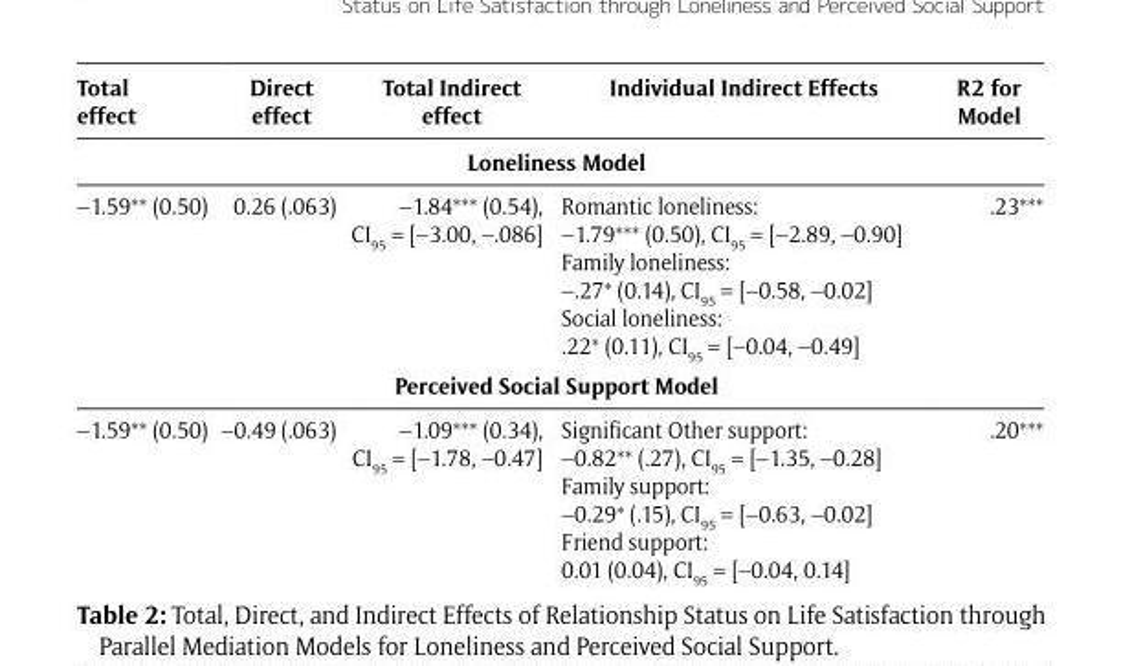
<table><thead><tr><td>Total effect</td><td>Direct effect</td><td>Total Indirect effect</td><td>Individual Indirect Effects</td><td>R2 for Model</td></tr></thead><tbody><tr><td colspan="5">Loneliness Model</td></tr><tr><td>−1.59** (0.50)</td><td>0.26 (.063)</td><td>−1.84*** (0.54), CI<sub>95</sub> = [−3.00, −.086]</td><td>Romantic loneliness: −1.79*** (0.50), CI<sub>95</sub> = [−2.89, −0.90] Family loneliness: −.27* (0.14), CI<sub>95</sub> = [−0.58, −0.02] Social loneliness: .22* (0.11), CI<sub>95</sub> = [−0.04, −0.49]</td><td>.23***</td></tr><tr><td colspan="5">Perceived Social Support Model</td></tr><tr><td>−1.59** (0.50)</td><td>−0.49 (.063)</td><td>−1.09*** (0.34), CI<sub>95</sub> = [−1.78, −0.47]</td><td>Significant Other support: −0.82** (.27), CI<sub>95</sub> = [−1.35, −0.28] Family support: −0.29* (.15), CI<sub>95</sub> = [−0.63, −0.02] Friend support: 0.01 (0.04), CI<sub>95</sub> = [−0.04, 0.14]</td><td>.20***</td></tr></tbody></table>